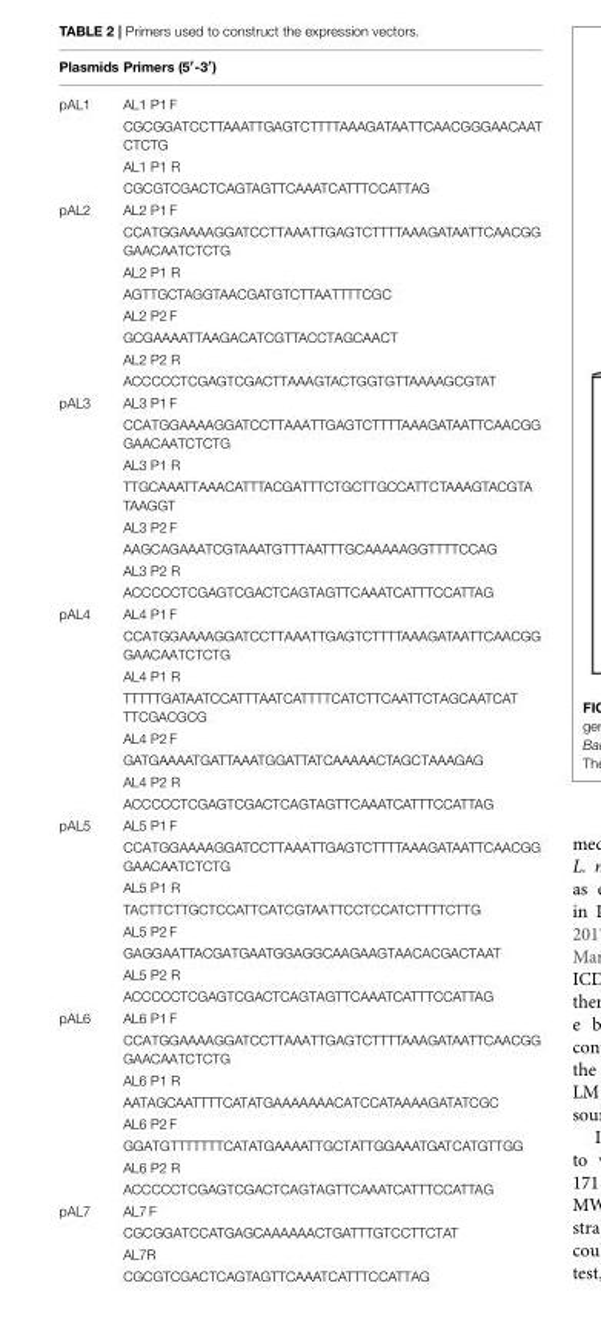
<table><thead><tr><td>Plasmids</td><td>Primers (5′-3′)</td></tr></thead><tbody><tr><td rowspan="4">pAL1</td><td>AL1 P1 F</td></tr><tr><td>CGCGGATCCTTAAATTGAGTCTTTTAAAGATAATTCAACGGGAACAAT CTCTG</td></tr><tr><td>AL1 P1 R</td></tr><tr><td>CGCGTCGACTCAGTAGTTCAAATCATTTCCATTAG</td></tr><tr><td rowspan="8">pAL2</td><td>AL2 P1 F</td></tr><tr><td>CCATGGAAAAGGATCCTTAAATTGAGTCTTTTAAAGATAATTCAACGG GAACAATCTCTG</td></tr><tr><td>AL2 P1 R</td></tr><tr><td>AGTTGCTAGGTAACGATGTCTTAATTTTCGC</td></tr><tr><td>AL2 P2 F</td></tr><tr><td>GCGAAAATTAAGACATCGTTACCTAGCAACT</td></tr><tr><td>AL2 P2 R</td></tr><tr><td>ACCCCCTCGAGTCGACTTAAAGTACTGGTGTTAAAAGCGTAT</td></tr><tr><td rowspan="8">pAL3</td><td>AL3 P1 F</td></tr><tr><td>CCATGGAAAAGGATCCTTAAATTGAGTCTTTTAAAGATAATTCAACGG GAACAATCTCTG</td></tr><tr><td>AL3 P1 R</td></tr><tr><td>TTGCAAATTAAACATTTACGATTTCTGCTTGCCATTCTAAAGTACGTA TAAGGT</td></tr><tr><td>AL3 P2 F</td></tr><tr><td>AAGCAGAAATCGTAAATGTTTAATTTGCAAAAAGGTTTTCCAG</td></tr><tr><td>AL3 P2 R</td></tr><tr><td>ACCCCCTCGAGTCGACTCAGTAGTTCAAATCATTTCCATTAG</td></tr><tr><td rowspan="8">pAL4</td><td>AL4 P1 F</td></tr><tr><td>CCATGGAAAAGGATCCTTAAATTGAGTCTTTTAAAGATAATTCAACGG GAACAATCTCTG</td></tr><tr><td>AL4 P1 R</td></tr><tr><td>TTTTTGATAATCCATTTAATCATTTTCATCTTCAATTCTAGCAATCAT TTCGACGCG</td></tr><tr><td>AL4 P2 F</td></tr><tr><td>GATGAAAATGATTAAATGGATTATCAAAAACTAGCTAAAGAG</td></tr><tr><td>AL4 P2 R</td></tr><tr><td>ACCCCCTCGAGTCGACTCAGTAGTTCAAATCATTTCCATTAG</td></tr><tr><td rowspan="8">pAL5</td><td>AL5 P1 F</td></tr><tr><td>CCATGGAAAAGGATCCTTAAATTGAGTCTTTTAAAGATAATTCAACGG GAACAATCTCTG</td></tr><tr><td>AL5 P1 R</td></tr><tr><td>TACTTCTTGCTCCATTCATCGTAATTCCTCCATCTTTTCTTG</td></tr><tr><td>AL5 P2 F</td></tr><tr><td>GAGGAATTACGATGAATGGAGGCAAGAAGTAACACGACTAAT</td></tr><tr><td>AL5 P2 R</td></tr><tr><td>ACCCCCTCGAGTCGACTCAGTAGTTCAAATCATTTCCATTAG</td></tr><tr><td rowspan="8">pAL6</td><td>AL6 P1 F</td></tr><tr><td>CCATGGAAAAGGATCCTTAAATTGAGTCTTTTAAAGATAATTCAACGG GAACAATCTCTG</td></tr><tr><td>AL6 P1 R</td></tr><tr><td>AATAGCAATTTTCATATGAAAAAAACATCCATAAAAGATATCGC</td></tr><tr><td>AL6 P2 F</td></tr><tr><td>GGATGTTTTTTTCATATGAAAATTGCTATTGGAAATGATCATGTTGG</td></tr><tr><td>AL6 P2 R</td></tr><tr><td>ACCCCCTCGAGTCGACTCAGTAGTTCAAATCATTTCCATTAG</td></tr><tr><td rowspan="4">pAL7</td><td>AL7 F</td></tr><tr><td>CGCGGATCCATGAGCAAAAAACTGATTTGTCCTTCTAT</td></tr><tr><td>AL7R</td></tr><tr><td>CGCGTCGACTCAGTAGTTCAAATCATTTCCATTAG</td></tr></tbody></table>